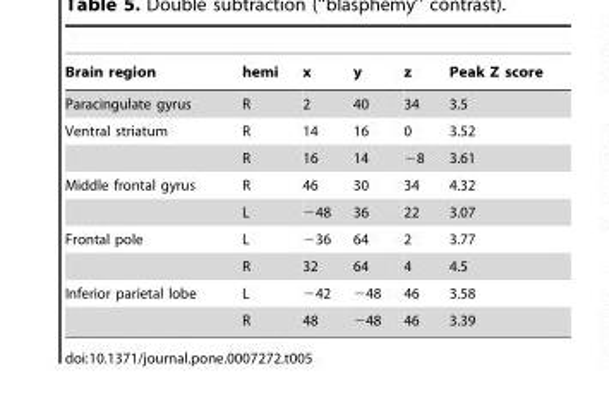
<table><thead><tr><td>Brain region</td><td>hemi</td><td>x</td><td>y</td><td>z</td><td>Peak Z score</td></tr></thead><tbody><tr><td>Paracingulate gyrus</td><td>R</td><td>2</td><td>40</td><td>34</td><td>3.5</td></tr><tr><td rowspan="2">Ventral striatum</td><td>R</td><td>14</td><td>16</td><td>0</td><td>3.52</td></tr><tr><td>R</td><td>16</td><td>14</td><td>−8</td><td>3.61</td></tr><tr><td rowspan="2">Middle frontal gyrus</td><td>R</td><td>46</td><td>30</td><td>34</td><td>4.32</td></tr><tr><td>L</td><td>−48</td><td>36</td><td>22</td><td>3.07</td></tr><tr><td rowspan="2">Frontal pole</td><td>L</td><td>−36</td><td>64</td><td>2</td><td>3.77</td></tr><tr><td>R</td><td>32</td><td>64</td><td>4</td><td>4.5</td></tr><tr><td rowspan="2">Inferior parietal lobe</td><td>L</td><td>−42</td><td>−48</td><td>46</td><td>3.58</td></tr><tr><td>R</td><td>48</td><td>−48</td><td>46</td><td>3.39</td></tr></tbody></table>